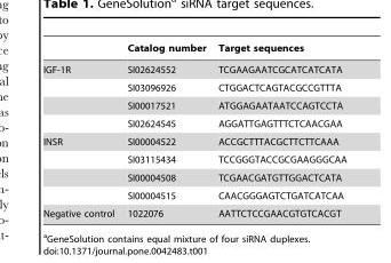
<table><thead><tr><td></td><td>Catalog number</td><td>Target sequences</td></tr></thead><tbody><tr><td rowspan="4">IGF-1R</td><td>SI02624552</td><td>TCGAAGAATCGCATCATCATA</td></tr><tr><td>SI03096926</td><td>CTGGACTCAGTACGCCGTTTA</td></tr><tr><td>SI00017521</td><td>ATGGAGAATAATCCAGTCCTA</td></tr><tr><td>SI02624545</td><td>AGGATTGAGTTTCTCAACGAA</td></tr><tr><td rowspan="4">INSR</td><td>SI00004522</td><td>ACCGCTTTACGCTTCTTCAAA</td></tr><tr><td>SI03115434</td><td>TCCGGGTACCGCGAAGGGCAA</td></tr><tr><td>SI00004508</td><td>TCGAACGATGTTGGACTCATA</td></tr><tr><td>SI00004515</td><td>CAACGGGAGTCTGATCATCAA</td></tr><tr><td>Negative control</td><td>1022076</td><td>AATTCTCCGAACGTGTCACGT</td></tr></tbody></table>